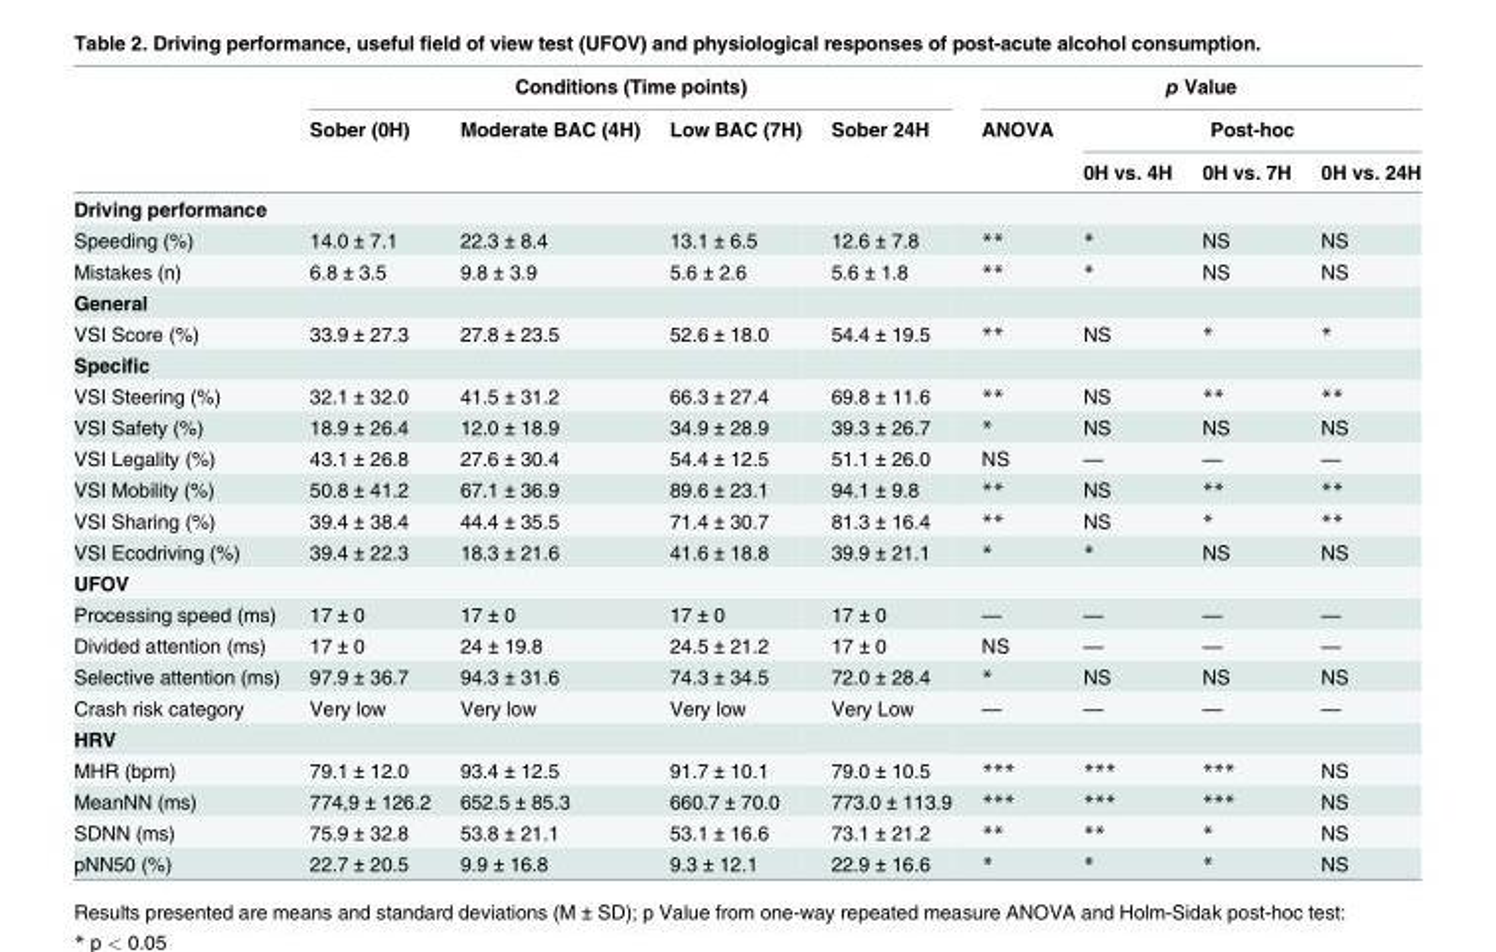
<table><thead><tr><td rowspan="3"></td><td colspan="4">Conditions (Time points)</td><td colspan="4">p Value</td></tr><tr><td rowspan="2">Sober (0H)</td><td rowspan="2">Moderate BAC (4H)</td><td rowspan="2">Low BAC (7H)</td><td rowspan="2">Sober 24H</td><td rowspan="2">ANOVA</td><td colspan="3">Post-hoc</td></tr><tr><td>0H vs. 4H</td><td>0H vs. 7H</td><td>0H vs. 24H</td></tr></thead><tbody><tr><td colspan="9">Driving performance</td></tr><tr><td>Speeding (%)</td><td>14.0 ± 7.1</td><td>22.3 ± 8.4</td><td>13.1 ± 6.5</td><td>12.6 ± 7.8</td><td>**</td><td>*</td><td>NS</td><td>NS</td></tr><tr><td>Mistakes (n)</td><td>6.8 ± 3.5</td><td>9.8 ± 3.9</td><td>5.6 ± 2.6</td><td>5.6 ± 1.8</td><td>**</td><td>*</td><td>NS</td><td>NS</td></tr><tr><td colspan="9">General</td></tr><tr><td>VSI Score (%)</td><td>33.9 ± 27.3</td><td>27.8 ± 23.5</td><td>52.6 ± 18.0</td><td>54.4 ± 19.5</td><td>**</td><td>NS</td><td>*</td><td>*</td></tr><tr><td colspan="9">Specific</td></tr><tr><td>VSI Steering (%)</td><td>32.1 ± 32.0</td><td>41.5 ± 31.2</td><td>66.3 ± 27.4</td><td>69.8 ± 11.6</td><td>**</td><td>NS</td><td>**</td><td>**</td></tr><tr><td>VSI Safety (%)</td><td>18.9 ± 26.4</td><td>12.0 ± 18.9</td><td>34.9 ± 28.9</td><td>39.3 ± 26.7</td><td>*</td><td>NS</td><td>NS</td><td>NS</td></tr><tr><td>VSI Legality (%)</td><td>43.1 ± 26.8</td><td>27.6 ± 30.4</td><td>54.4 ± 12.5</td><td>51.1 ± 26.0</td><td>NS</td><td>—</td><td>—</td><td>—</td></tr><tr><td>VSI Mobility (%)</td><td>50.8 ± 41.2</td><td>67.1 ± 36.9</td><td>89.6 ± 23.1</td><td>94.1 ± 9.8</td><td>**</td><td>NS</td><td>**</td><td>**</td></tr><tr><td>VSI Sharing (%)</td><td>39.4 ± 38.4</td><td>44.4 ± 35.5</td><td>71.4 ± 30.7</td><td>81.3 ± 16.4</td><td>**</td><td>NS</td><td>*</td><td>**</td></tr><tr><td>VSI Ecodriving (%)</td><td>39.4 ± 22.3</td><td>18.3 ± 21.6</td><td>41.6 ± 18.8</td><td>39.9 ± 21.1</td><td>*</td><td>*</td><td>NS</td><td>NS</td></tr><tr><td colspan="9">UFOV</td></tr><tr><td>Processing speed (ms)</td><td>17 ± 0</td><td>17 ± 0</td><td>17 ± 0</td><td>17 ± 0</td><td>—</td><td>—</td><td>—</td><td>—</td></tr><tr><td>Divided attention (ms)</td><td>17 ± 0</td><td>24 ± 19.8</td><td>24.5 ± 21.2</td><td>17 ± 0</td><td>NS</td><td>—</td><td>—</td><td>—</td></tr><tr><td>Selective attention (ms)</td><td>97.9 ± 36.7</td><td>94.3 ± 31.6</td><td>74.3 ± 34.5</td><td>72.0 ± 28.4</td><td>*</td><td>NS</td><td>NS</td><td>NS</td></tr><tr><td>Crash risk category</td><td>Very low</td><td>Very low</td><td>Very low</td><td>Very Low</td><td>—</td><td>—</td><td>—</td><td>—</td></tr><tr><td colspan="9">HRV</td></tr><tr><td>MHR (bpm)</td><td>79.1 ± 12.0</td><td>93.4 ± 12.5</td><td>91.7 ± 10.1</td><td>79.0 ± 10.5</td><td>***</td><td>***</td><td>***</td><td>NS</td></tr><tr><td>MeanNN (ms)</td><td>774,9 ± 126.2</td><td>652.5 ± 85.3</td><td>660.7 ± 70.0</td><td>773.0 ± 113.9</td><td>***</td><td>***</td><td>***</td><td>NS</td></tr><tr><td>SDNN (ms)</td><td>75.9 ± 32.8</td><td>53.8 ± 21.1</td><td>53.1 ± 16.6</td><td>73.1 ± 21.2</td><td>**</td><td>**</td><td>*</td><td>NS</td></tr><tr><td>pNN50 (%)</td><td>22.7 ± 20.5</td><td>9.9 ± 16.8</td><td>9.3 ± 12.1</td><td>22.9 ± 16.6</td><td>*</td><td>*</td><td>*</td><td>NS</td></tr></tbody></table>